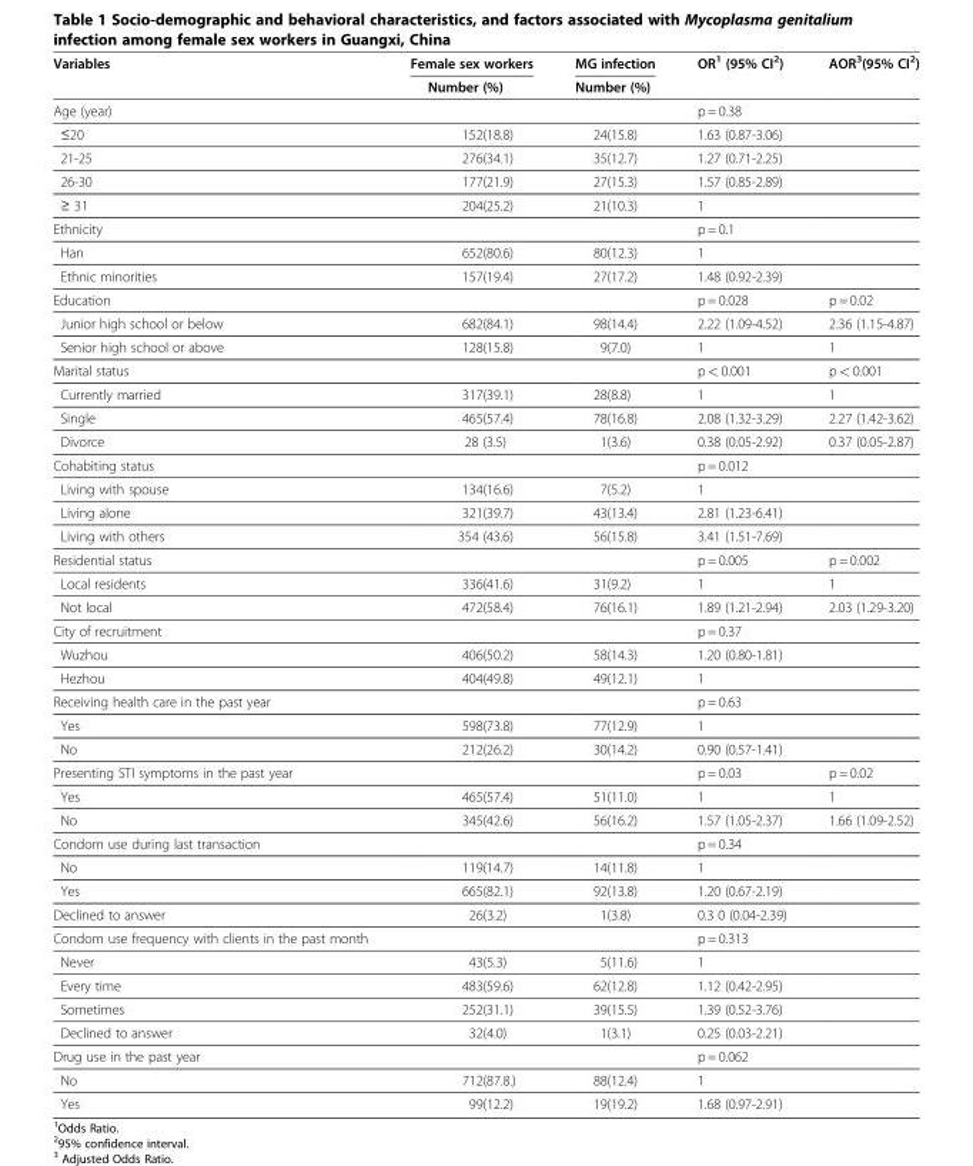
<table><thead><tr><td rowspan="2">Variables</td><td rowspan="2">Female sex workers Number (%)</td><td rowspan="2">MG infection Number (%)</td><td rowspan="2">OR<sup>1</sup> (95% CI<sup>2</sup>)</td><td rowspan="2">AOR<sup>3</sup>(95% CI<sup>2</sup>)</td></tr><tr></tr></thead><tbody><tr><td>Age (year)</td><td></td><td></td><td>p = 0.38</td><td></td></tr><tr><td>≤20</td><td>152(18.8)</td><td>24(15.8)</td><td>1.63 (0.87-3.06)</td><td></td></tr><tr><td>21-25</td><td>276(34.1)</td><td>35(12.7)</td><td>1.27 (0.71-2.25)</td><td></td></tr><tr><td>26-30</td><td>177(21.9)</td><td>27(15.3)</td><td>1.57 (0.85-2.89)</td><td></td></tr><tr><td>≥ 31</td><td>204(25.2)</td><td>21(10.3)</td><td>1</td><td></td></tr><tr><td>Ethnicity</td><td></td><td></td><td>p = 0.1</td><td></td></tr><tr><td>Han</td><td>652(80.6)</td><td>80(12.3)</td><td>1</td><td></td></tr><tr><td>Ethnic minorities</td><td>157(19.4)</td><td>27(17.2)</td><td>1.48 (0.92-2.39)</td><td></td></tr><tr><td>Education</td><td></td><td></td><td>p = 0.028</td><td>p = 0.02</td></tr><tr><td>Junior high school or below</td><td>682(84.1)</td><td>98(14.4)</td><td>2.22 (1.09-4.52)</td><td>2.36 (1.15-4.87)</td></tr><tr><td>Senior high school or above</td><td>128(15.8)</td><td>9(7.0)</td><td>1</td><td>1</td></tr><tr><td>Marital status</td><td></td><td></td><td>p &lt; 0.001</td><td>p &lt; 0.001</td></tr><tr><td>Currently married</td><td>317(39.1)</td><td>28(8.8)</td><td>1</td><td>1</td></tr><tr><td>Single</td><td>465(57.4)</td><td>78(16.8)</td><td>2.08 (1.32-3.29)</td><td>2.27 (1.42-3.62)</td></tr><tr><td>Divorce</td><td>28 (3.5)</td><td>1(3.6)</td><td>0.38 (0.05-2.92)</td><td>0.37 (0.05-2.87)</td></tr><tr><td>Cohabiting status</td><td></td><td></td><td>p = 0.012</td><td></td></tr><tr><td>Living with spouse</td><td>134(16.6)</td><td>7(5.2)</td><td>1</td><td></td></tr><tr><td>Living alone</td><td>321(39.7)</td><td>43(13.4)</td><td>2.81 (1.23-6.41)</td><td></td></tr><tr><td>Living with others</td><td>354 (43.6)</td><td>56(15.8)</td><td>3.41 (1.51-7.69)</td><td></td></tr><tr><td>Residential status</td><td></td><td></td><td>p = 0.005</td><td>p = 0.002</td></tr><tr><td>Local residents</td><td>336(41.6)</td><td>31(9.2)</td><td>1</td><td>1</td></tr><tr><td>Not local</td><td>472(58.4)</td><td>76(16.1)</td><td>1.89 (1.21-2.94)</td><td>2.03 (1.29-3.20)</td></tr><tr><td>City of recruitment</td><td></td><td></td><td>p = 0.37</td><td></td></tr><tr><td>Wuzhou</td><td>406(50.2)</td><td>58(14.3)</td><td>1.20 (0.80-1.81)</td><td></td></tr><tr><td>Hezhou</td><td>404(49.8)</td><td>49(12.1)</td><td>1</td><td></td></tr><tr><td>Receiving health care in the past year</td><td></td><td></td><td>p = 0.63</td><td></td></tr><tr><td>Yes</td><td>598(73.8)</td><td>77(12.9)</td><td>1</td><td></td></tr><tr><td>No</td><td>212(26.2)</td><td>30(14.2)</td><td>0.90 (0.57-1.41)</td><td></td></tr><tr><td>Presenting STI symptoms in the past year</td><td></td><td></td><td>p = 0.03</td><td>p = 0.02</td></tr><tr><td>Yes</td><td>465(57.4)</td><td>51(11.0)</td><td>1</td><td>1</td></tr><tr><td>No</td><td>345(42.6)</td><td>56(16.2)</td><td>1.57 (1.05-2.37)</td><td>1.66 (1.09-2.52)</td></tr><tr><td>Condom use during last transaction</td><td></td><td></td><td>p = 0.34</td><td></td></tr><tr><td>No</td><td>119(14.7)</td><td>14(11.8)</td><td>1</td><td></td></tr><tr><td>Yes</td><td>665(82.1)</td><td>92(13.8)</td><td>1.20 (0.67-2.19)</td><td></td></tr><tr><td>Declined to answer</td><td>26(3.2)</td><td>1(3.8)</td><td>0.3 0 (0.04-2.39)</td><td></td></tr><tr><td>Condom use frequency with clients in the past month</td><td></td><td></td><td>p = 0.313</td><td></td></tr><tr><td>Never</td><td>43(5.3)</td><td>5(11.6)</td><td>1</td><td></td></tr><tr><td>Every time</td><td>483(59.6)</td><td>62(12.8)</td><td>1.12 (0.42-2.95)</td><td></td></tr><tr><td>Sometimes</td><td>252(31.1)</td><td>39(15.5)</td><td>1.39 (0.52-3.76)</td><td></td></tr><tr><td>Declined to answer</td><td>32(4.0)</td><td>1(3.1)</td><td>0.25 (0.03-2.21)</td><td></td></tr><tr><td>Drug use in the past year</td><td></td><td></td><td>p = 0.062</td><td></td></tr><tr><td>No</td><td>712(87.8.)</td><td>88(12.4)</td><td>1</td><td></td></tr><tr><td>Yes</td><td>99(12.2)</td><td>19(19.2)</td><td>1.68 (0.97-2.91)</td><td></td></tr></tbody></table>